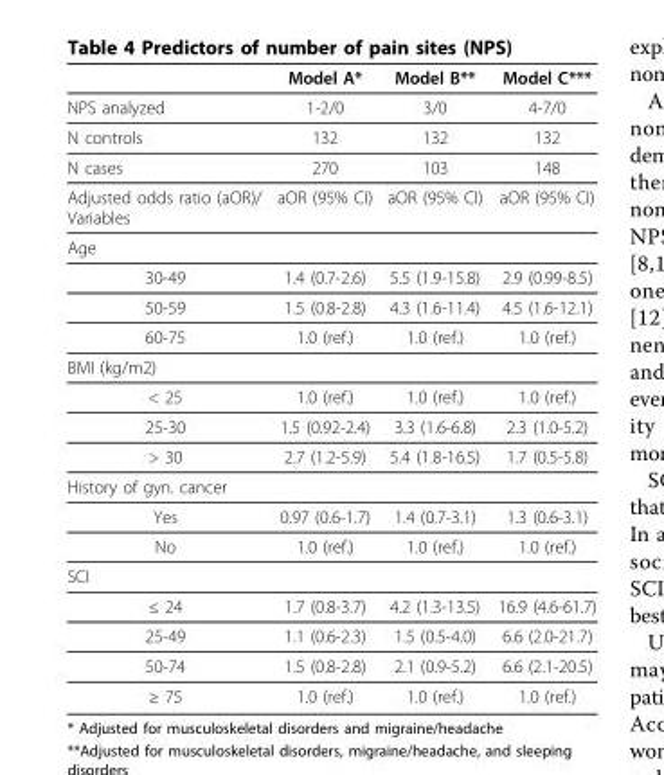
<table><thead><tr><td></td><td>Model A*</td><td>Model B**</td><td>Model C***</td></tr></thead><tbody><tr><td>NPS analyzed</td><td>1-2/0</td><td>3/0</td><td>4-7/0</td></tr><tr><td>N controls</td><td>132</td><td>132</td><td>132</td></tr><tr><td>N cases</td><td>270</td><td>103</td><td>148</td></tr><tr><td>Adjusted odds ratio (aOR)/ Variables</td><td>aOR (95% CI)</td><td>aOR (95% CI)</td><td>aOR (95% CI)</td></tr><tr><td colspan="4">Age</td></tr><tr><td>30-49</td><td>1.4 (0.7-2.6)</td><td>5.5 (1.9-15.8)</td><td>2.9 (0.99-8.5)</td></tr><tr><td>50-59</td><td>1.5 (0.8-2.8)</td><td>4.3 (1.6-11.4)</td><td>4.5 (1.6-12.1)</td></tr><tr><td>60-75</td><td>1.0 (ref.)</td><td>1.0 (ref.)</td><td>1.0 (ref.)</td></tr><tr><td colspan="4">BMI (kg/m2)</td></tr><tr><td>&lt; 25</td><td>1.0 (ref.)</td><td>1.0 (ref.)</td><td>1.0 (ref.)</td></tr><tr><td>25-30</td><td>1.5 (0.92-2.4)</td><td>3.3 (1.6-6.8)</td><td>2.3 (1.0-5.2)</td></tr><tr><td>&gt; 30</td><td>2.7 (1.2-5.9)</td><td>5.4 (1.8-16.5)</td><td>1.7 (0.5-5.8)</td></tr><tr><td colspan="4">History of gyn. cancer</td></tr><tr><td>Yes</td><td>0.97 (0.6-1.7)</td><td>1.4 (0.7-3.1)</td><td>1.3 (0.6-3.1)</td></tr><tr><td>No</td><td>1.0 (ref.)</td><td>1.0 (ref.)</td><td>1.0 (ref.)</td></tr><tr><td colspan="4">SCI</td></tr><tr><td>≤ 24</td><td>1.7 (0.8-3.7)</td><td>4.2 (1.3-13.5)</td><td>16.9 (4.6-61.7)</td></tr><tr><td>25-49</td><td>1.1 (0.6-2.3)</td><td>1.5 (0.5-4.0)</td><td>6.6 (2.0-21.7)</td></tr><tr><td>50-74</td><td>1.5 (0.8-2.8)</td><td>2.1 (0.9-5.2)</td><td>6.6 (2.1-20.5)</td></tr><tr><td>≥ 75</td><td>1.0 (ref.)</td><td>1.0 (ref.)</td><td>1.0 (ref.)</td></tr></tbody></table>